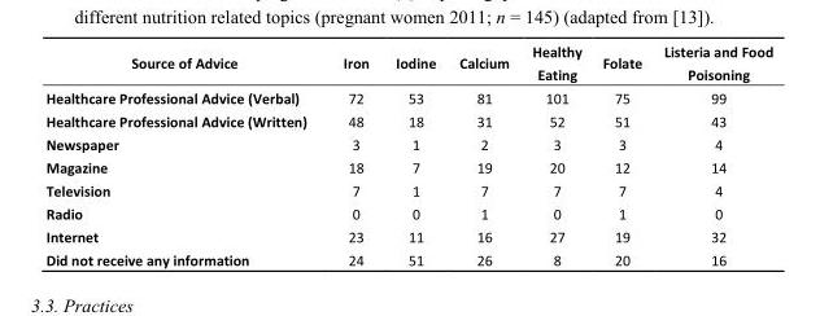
<table><thead><tr><td>Source of Advice</td><td>Iron</td><td>Iodine</td><td>Calcium</td><td>Healthy Eating</td><td>Folate</td><td>Listeria and Food Poisoning</td></tr></thead><tbody><tr><td>Healthcare Professional Advice (Verbal)</td><td>72</td><td>53</td><td>81</td><td>101</td><td>75</td><td>99</td></tr><tr><td>Healthcare Professional Advice (Written)</td><td>48</td><td>18</td><td>31</td><td>52</td><td>51</td><td>43</td></tr><tr><td>Newspaper</td><td>3</td><td>1</td><td>2</td><td>3</td><td>3</td><td>4</td></tr><tr><td>Magazine</td><td>18</td><td>7</td><td>19</td><td>20</td><td>12</td><td>14</td></tr><tr><td>Television</td><td>7</td><td>1</td><td>7</td><td>7</td><td>7</td><td>4</td></tr><tr><td>Radio</td><td>0</td><td>0</td><td>1</td><td>0</td><td>1</td><td>0</td></tr><tr><td>Internet</td><td>23</td><td>11</td><td>16</td><td>27</td><td>19</td><td>32</td></tr><tr><td>Did not receive any information</td><td>24</td><td>51</td><td>26</td><td>8</td><td>20</td><td>16</td></tr></tbody></table>